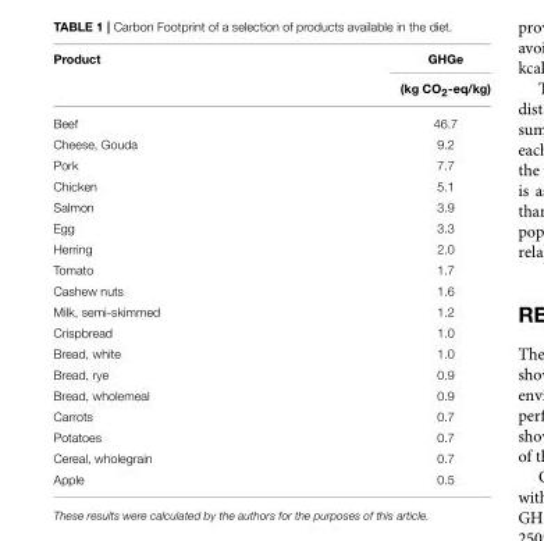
<table><thead><tr><td rowspan="2">Product</td><td rowspan="2">GHGe (kg CO<sub>2</sub>-eq/kg)</td></tr><tr></tr></thead><tbody><tr><td>Beef</td><td>46.7</td></tr><tr><td>Cheese, Gouda</td><td>9.2</td></tr><tr><td>Pork</td><td>7.7</td></tr><tr><td>Chicken</td><td>5.1</td></tr><tr><td>Salmon</td><td>3.9</td></tr><tr><td>Egg</td><td>3.3</td></tr><tr><td>Herring</td><td>2.0</td></tr><tr><td>Tomato</td><td>1.7</td></tr><tr><td>Cashew nuts</td><td>1.6</td></tr><tr><td>Milk, semi-skimmed</td><td>1.2</td></tr><tr><td>Crispbread</td><td>1.0</td></tr><tr><td>Bread, white</td><td>1.0</td></tr><tr><td>Bread, rye</td><td>0.9</td></tr><tr><td>Bread, wholemeal</td><td>0.9</td></tr><tr><td>Carrots</td><td>0.7</td></tr><tr><td>Potatoes</td><td>0.7</td></tr><tr><td>Cereal, wholegrain</td><td>0.7</td></tr><tr><td>Apple</td><td>0.5</td></tr></tbody></table>